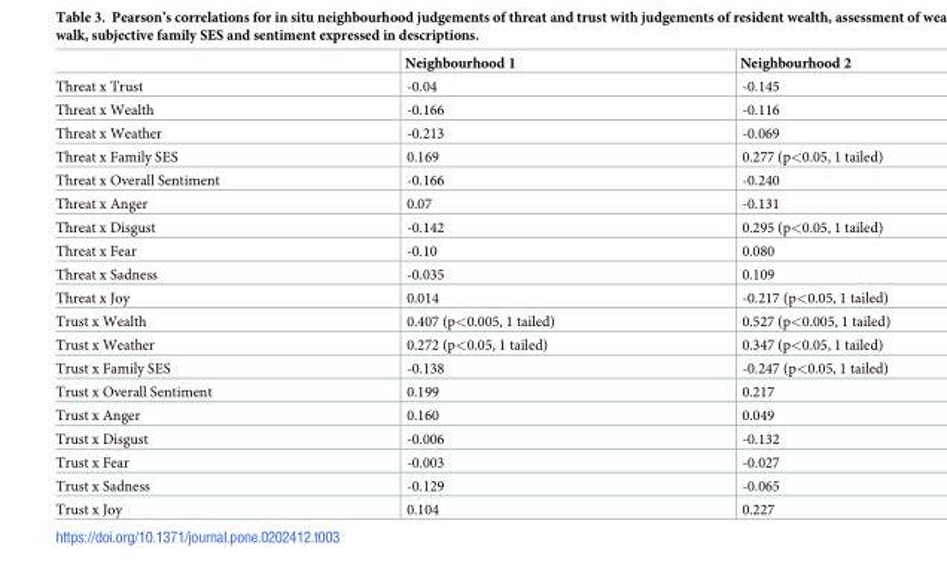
<table><thead><tr><td></td><td>Neighbourhood 1</td><td>Neighbourhood 2</td></tr></thead><tbody><tr><td>Threat x Trust</td><td>-0.04</td><td>-0.145</td></tr><tr><td>Threat x Wealth</td><td>-0.166</td><td>-0.116</td></tr><tr><td>Threat x Weather</td><td>-0.213</td><td>-0.069</td></tr><tr><td>Threat x Family SES</td><td>0.169</td><td>0.277 (p&lt;0.05, 1 tailed)</td></tr><tr><td>Threat x Overall Sentiment</td><td>-0.166</td><td>-0.240</td></tr><tr><td>Threat x Anger</td><td>0.07</td><td>-0.131</td></tr><tr><td>Threat x Disgust</td><td>-0.142</td><td>0.295 (p&lt;0.05, 1 tailed)</td></tr><tr><td>Threat x Fear</td><td>-0.10</td><td>0.080</td></tr><tr><td>Threat x Sadness</td><td>-0.035</td><td>0.109</td></tr><tr><td>Threat x Joy</td><td>0.014</td><td>-0.217 (p&lt;0.05, 1 tailed)</td></tr><tr><td>Trust x Wealth</td><td>0.407 (p&lt;0.005, 1 tailed)</td><td>0.527 (p&lt;0.005, 1 tailed)</td></tr><tr><td>Trust x Weather</td><td>0.272 (p&lt;0.05, 1 tailed)</td><td>0.347 (p&lt;0.05, 1 tailed)</td></tr><tr><td>Trust x Family SES</td><td>-0.138</td><td>-0.247 (p&lt;0.05, 1 tailed)</td></tr><tr><td>Trust x Overall Sentiment</td><td>0.199</td><td>0.217</td></tr><tr><td>Trust x Anger</td><td>0.160</td><td>0.049</td></tr><tr><td>Trust x Disgust</td><td>-0.006</td><td>-0.132</td></tr><tr><td>Trust x Fear</td><td>-0.003</td><td>-0.027</td></tr><tr><td>Trust x Sadness</td><td>-0.129</td><td>-0.065</td></tr><tr><td>Trust x Joy</td><td>0.104</td><td>0.227</td></tr></tbody></table>